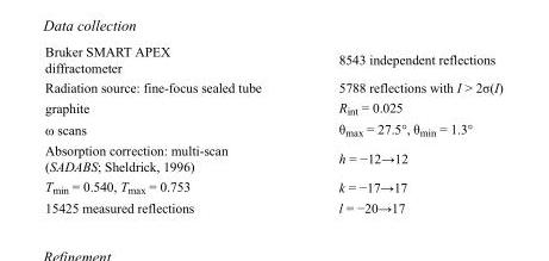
<table><tbody><tr><td>Bruker SMART APEX diffractometer</td><td>8543 independent reflections</td></tr><tr><td>Radiation source: fine-focus sealed tube</td><td>5788 reflections with I &gt; 2σ(I)</td></tr><tr><td>graphite</td><td>R<sub>int</sub> = 0.025</td></tr><tr><td>ω scans</td><td>θ<sub>max</sub> = 27.5°, θ<sub>min</sub> = 1.3°</td></tr><tr><td>Absorption correction: multi-scan (SADABS; Sheldrick, 1996)</td><td>h = −12→12</td></tr><tr><td>T<sub>min</sub> = 0.540, T<sub>max</sub> = 0.753</td><td>k = −17→17</td></tr><tr><td>15425 measured reflections</td><td>l = −20→17</td></tr></tbody></table>